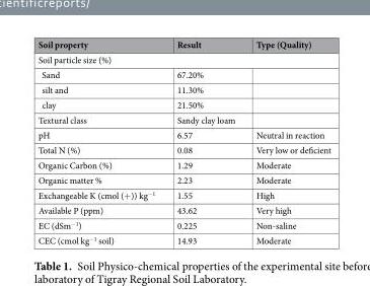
<table><thead><tr><td>Soil property</td><td>Result</td><td>Type (Quality)</td></tr></thead><tbody><tr><td colspan="3">Soil particle size (%)</td></tr><tr><td>Sand</td><td>67.20%</td><td></td></tr><tr><td>silt and</td><td>11.30%</td><td></td></tr><tr><td>clay</td><td>21.50%</td><td></td></tr><tr><td>Textural class</td><td>Sandy clay loam</td><td></td></tr><tr><td>pH</td><td>6.57</td><td>Neutral in reaction</td></tr><tr><td>Total N (%)</td><td>0.08</td><td>Very low or deficient</td></tr><tr><td>Organic Carbon (%)</td><td>1.29</td><td>Moderate</td></tr><tr><td>Organic matter %</td><td>2.23</td><td>Moderate</td></tr><tr><td>Exchangeable K (cmol (+)) kg<sup>−1</sup></td><td>1.55</td><td>High</td></tr><tr><td>Available P (ppm)</td><td>43.62</td><td>Very high</td></tr><tr><td>EC (dSm<sup>−1</sup>)</td><td>0.225</td><td>Non-saline</td></tr><tr><td>CEC (cmol kg<sup>−1</sup> soil)</td><td>14.93</td><td>Moderate</td></tr></tbody></table>